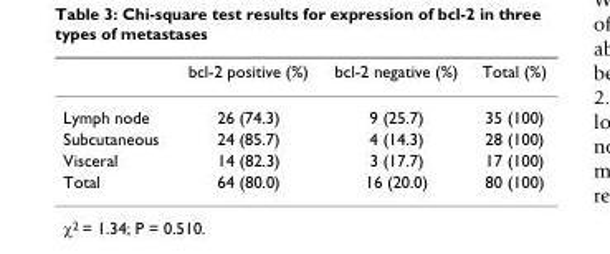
<table><thead><tr><td></td><td>bcl-2 positive (%)</td><td>bcl-2 negative (%)</td><td>Total (%)</td></tr></thead><tbody><tr><td>Lymph node</td><td>26 (74.3)</td><td>9 (25.7)</td><td>35 (100)</td></tr><tr><td>Subcutaneous</td><td>24 (85.7)</td><td>4 (14.3)</td><td>28 (100)</td></tr><tr><td>Visceral</td><td>14 (82.3)</td><td>3 (17.7)</td><td>17 (100)</td></tr><tr><td>Total</td><td>64 (80.0)</td><td>16 (20.0)</td><td>80 (100)</td></tr></tbody></table>